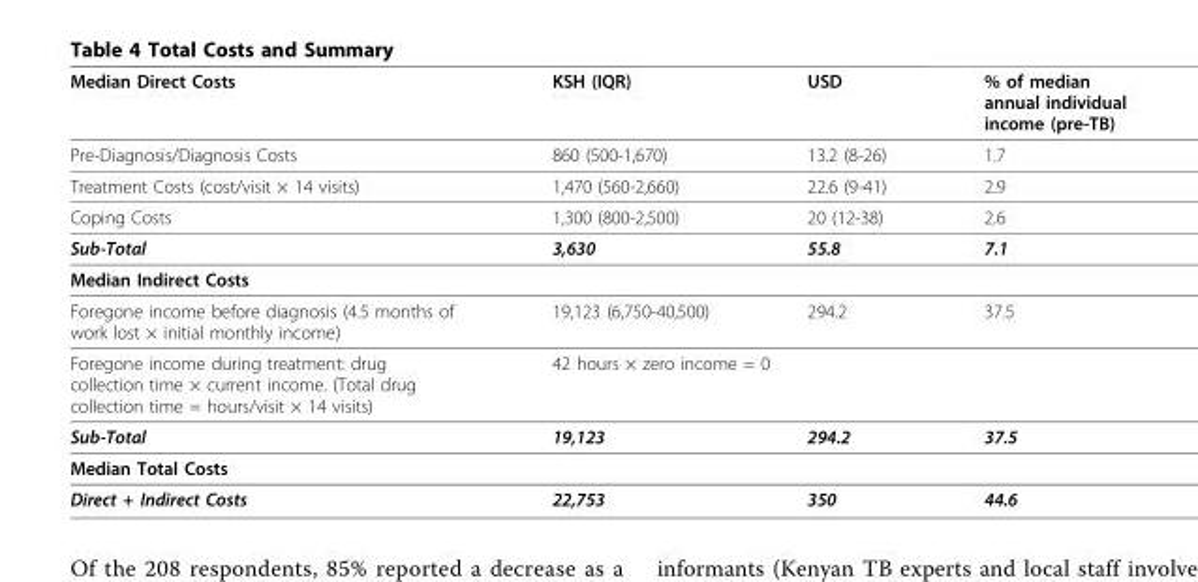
<table><thead><tr><td>Median Direct Costs</td><td>KSH (IQR)</td><td>USD</td><td>% of median annual individual income (pre-TB)</td></tr></thead><tbody><tr><td>Pre-Diagnosis/Diagnosis Costs</td><td>860 (500-1,670)</td><td>13.2 (8-26)</td><td>1.7</td></tr><tr><td>Treatment Costs (cost/visit × 14 visits)</td><td>1,470 (560-2,660)</td><td>22.6 (9-41)</td><td>2.9</td></tr><tr><td>Coping Costs</td><td>1,300 (800-2,500)</td><td>20 (12-38)</td><td>2.6</td></tr><tr><td>Sub-Total</td><td>3,630</td><td>55.8</td><td>7.1</td></tr><tr><td colspan="4">Median Indirect Costs</td></tr><tr><td>Foregone income before diagnosis (4.5 months of work lost × initial monthly income)</td><td>19,123 (6,750-40,500)</td><td>294.2</td><td>37.5</td></tr><tr><td>Foregone income during treatment: drug collection time × current income. (Total drug collection time = hours/visit × 14 visits)</td><td colspan="3">42 hours × zero income = 0</td></tr><tr><td>Sub-Total</td><td>19,123</td><td>294.2</td><td>37.5</td></tr><tr><td colspan="4">Median Total Costs</td></tr><tr><td>Direct + Indirect Costs</td><td>22,753</td><td>350</td><td>44.6</td></tr></tbody></table>